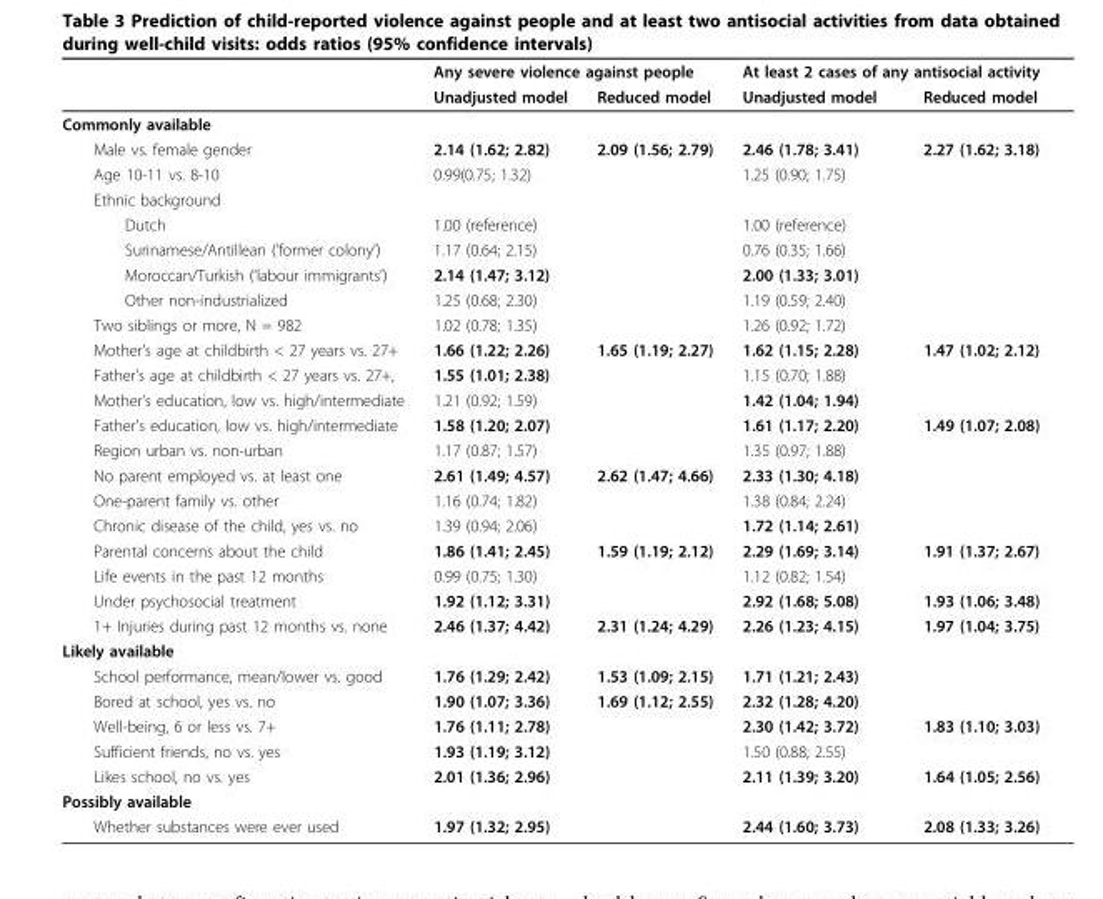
<table><thead><tr><td rowspan="2"></td><td colspan="2">Any severe violence against people</td><td colspan="2">At least 2 cases of any antisocial activity</td></tr><tr><td>Unadjusted model</td><td>Reduced model</td><td>Unadjusted model</td><td>Reduced model</td></tr></thead><tbody><tr><td colspan="5">Commonly available</td></tr><tr><td>Male vs. female gender</td><td>2.14 (1.62; 2.82)</td><td>2.09 (1.56; 2.79)</td><td>2.46 (1.78; 3.41)</td><td>2.27 (1.62; 3.18)</td></tr><tr><td>Age 10-11 vs. 8-10</td><td>0.99(0.75; 1.32)</td><td></td><td>1.25 (0.90; 1.75)</td><td></td></tr><tr><td colspan="5">Ethnic background</td></tr><tr><td>Dutch</td><td>1.00 (reference)</td><td></td><td>1.00 (reference)</td><td></td></tr><tr><td>Surinamese/Antillean (’former colony’)</td><td>1.17 (0.64; 2.15)</td><td></td><td>0.76 (0.35; 1.66)</td><td></td></tr><tr><td>Moroccan/Turkish (’labour immigrants’)</td><td>2.14 (1.47; 3.12)</td><td></td><td>2.00 (1.33; 3.01)</td><td></td></tr><tr><td>Other non-industrialized</td><td>1.25 (0.68; 2.30)</td><td></td><td>1.19 (0.59; 2.40)</td><td></td></tr><tr><td>Two siblings or more, N = 982</td><td>1.02 (0.78; 1.35)</td><td></td><td>1.26 (0.92; 1.72)</td><td></td></tr><tr><td>Mother’s age at childbirth &lt; 27 years vs. 27+</td><td>1.66 (1.22; 2.26)</td><td>1.65 (1.19; 2.27)</td><td>1.62 (1.15; 2.28)</td><td>1.47 (1.02; 2.12)</td></tr><tr><td>Father’s age at childbirth &lt; 27 years vs. 27+,</td><td>1.55 (1.01; 2.38)</td><td></td><td>1.15 (0.70; 1.88)</td><td></td></tr><tr><td>Mother’s education, low vs. high/intermediate</td><td>1.21 (0.92; 1.59)</td><td></td><td>1.42 (1.04; 1.94)</td><td></td></tr><tr><td>Father’s education, low vs. high/intermediate</td><td>1.58 (1.20; 2.07)</td><td></td><td>1.61 (1.17; 2.20)</td><td>1.49 (1.07; 2.08)</td></tr><tr><td>Region urban vs. non-urban</td><td>1.17 (0.87; 1.57)</td><td></td><td>1.35 (0.97; 1.88)</td><td></td></tr><tr><td>No parent employed vs. at least one</td><td>2.61 (1.49; 4.57)</td><td>2.62 (1.47; 4.66)</td><td>2.33 (1.30; 4.18)</td><td></td></tr><tr><td>One-parent family vs. other</td><td>1.16 (0.74; 1.82)</td><td></td><td>1.38 (0.84; 2.24)</td><td></td></tr><tr><td>Chronic disease of the child, yes vs. no</td><td>1.39 (0.94; 2.06)</td><td></td><td>1.72 (1.14; 2.61)</td><td></td></tr><tr><td>Parental concerns about the child</td><td>1.86 (1.41; 2.45)</td><td>1.59 (1.19; 2.12)</td><td>2.29 (1.69; 3.14)</td><td>1.91 (1.37; 2.67)</td></tr><tr><td>Life events in the past 12 months</td><td>0.99 (0.75; 1.30)</td><td></td><td>1.12 (0.82; 1.54)</td><td></td></tr><tr><td>Under psychosocial treatment</td><td>1.92 (1.12; 3.31)</td><td></td><td>2.92 (1.68; 5.08)</td><td>1.93 (1.06; 3.48)</td></tr><tr><td>1+ Injuries during past 12 months vs. none</td><td>2.46 (1.37; 4.42)</td><td>2.31 (1.24; 4.29)</td><td>2.26 (1.23; 4.15)</td><td>1.97 (1.04; 3.75)</td></tr><tr><td colspan="5">Likely available</td></tr><tr><td>School performance, mean/lower vs. good</td><td>1.76 (1.29; 2.42)</td><td>1.53 (1.09; 2.15)</td><td>1.71 (1.21; 2.43)</td><td></td></tr><tr><td>Bored at school, yes vs. no</td><td>1.90 (1.07; 3.36)</td><td>1.69 (1.12; 2.55)</td><td>2.32 (1.28; 4.20)</td><td></td></tr><tr><td>Well-being, 6 or less vs. 7+</td><td>1.76 (1.11; 2.78)</td><td></td><td>2.30 (1.42; 3.72)</td><td>1.83 (1.10; 3.03)</td></tr><tr><td>Sufficient friends, no vs. yes</td><td>1.93 (1.19; 3.12)</td><td></td><td>1.50 (0.88; 2.55)</td><td></td></tr><tr><td>Likes school, no vs. yes</td><td>2.01 (1.36; 2.96)</td><td></td><td>2.11 (1.39; 3.20)</td><td>1.64 (1.05; 2.56)</td></tr><tr><td colspan="5">Possibly available</td></tr><tr><td>Whether substances were ever used</td><td>1.97 (1.32; 2.95)</td><td></td><td>2.44 (1.60; 3.73)</td><td>2.08 (1.33; 3.26)</td></tr></tbody></table>